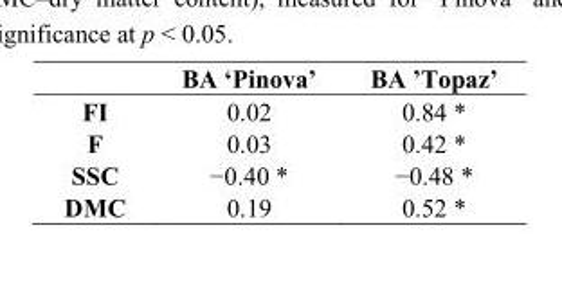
<table><thead><tr><td></td><td>BA ‘Pinova’</td><td>BA ’Topaz’</td></tr></thead><tbody><tr><td>FI</td><td>0.02</td><td>0.84 *</td></tr><tr><td>F</td><td>0.03</td><td>0.42 *</td></tr><tr><td>SSC</td><td>−0.40 *</td><td>−0.48 *</td></tr><tr><td>DMC</td><td>0.19</td><td>0.52 *</td></tr></tbody></table>